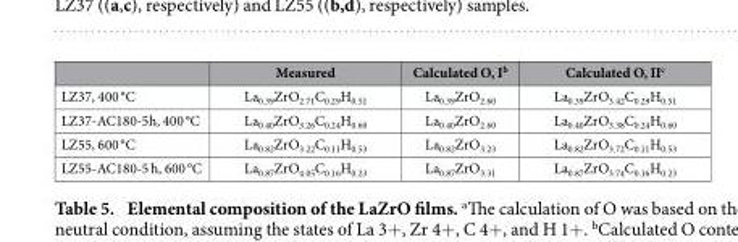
<table><thead><tr><td></td><td>Measured</td><td>Calculated O, I<sup>b</sup></td><td>Calculated O, II<sup>c</sup></td></tr></thead><tbody><tr><td>LZ37, 400 °C</td><td>La<sub>0.39</sub>ZrO<sub>2.71</sub>C<sub>0.29</sub>H<sub>0.51</sub></td><td>La<sub>0.39</sub>ZrO<sub>2.60</sub></td><td>La<sub>0.39</sub>ZrO<sub>3.42</sub>C<sub>0.29</sub>H<sub>0.51</sub></td></tr><tr><td>LZ37-AC180-5h, 400 °C</td><td>La<sub>0.40</sub>ZrO<sub>3.26</sub>C<sub>0.24</sub>H<sub>0.60</sub></td><td>La<sub>0.40</sub>ZrO<sub>2.60</sub></td><td>La<sub>0.40</sub>ZrO<sub>3.38</sub>C<sub>0.24</sub>H<sub>0.60</sub></td></tr><tr><td>LZ55, 600 °C</td><td>La<sub>0.82</sub>ZrO<sub>3.22</sub>C<sub>0.11</sub>H<sub>0.53</sub></td><td>La<sub>0.82</sub>ZrO<sub>3.23</sub></td><td>La<sub>0.82</sub>ZrO<sub>3.72</sub>C<sub>0.11</sub>H<sub>0.53</sub></td></tr><tr><td>LZ55-AC180-5 h, 600 °C</td><td>La<sub>0.87</sub>ZrO<sub>4.05</sub>C<sub>0.16</sub>H<sub>0.23</sub></td><td>La<sub>0.87</sub>ZrO<sub>3.31</sub></td><td>La<sub>0.87</sub>ZrO<sub>3.74</sub>C<sub>0.16</sub>H<sub>0.23</sub></td></tr></tbody></table>